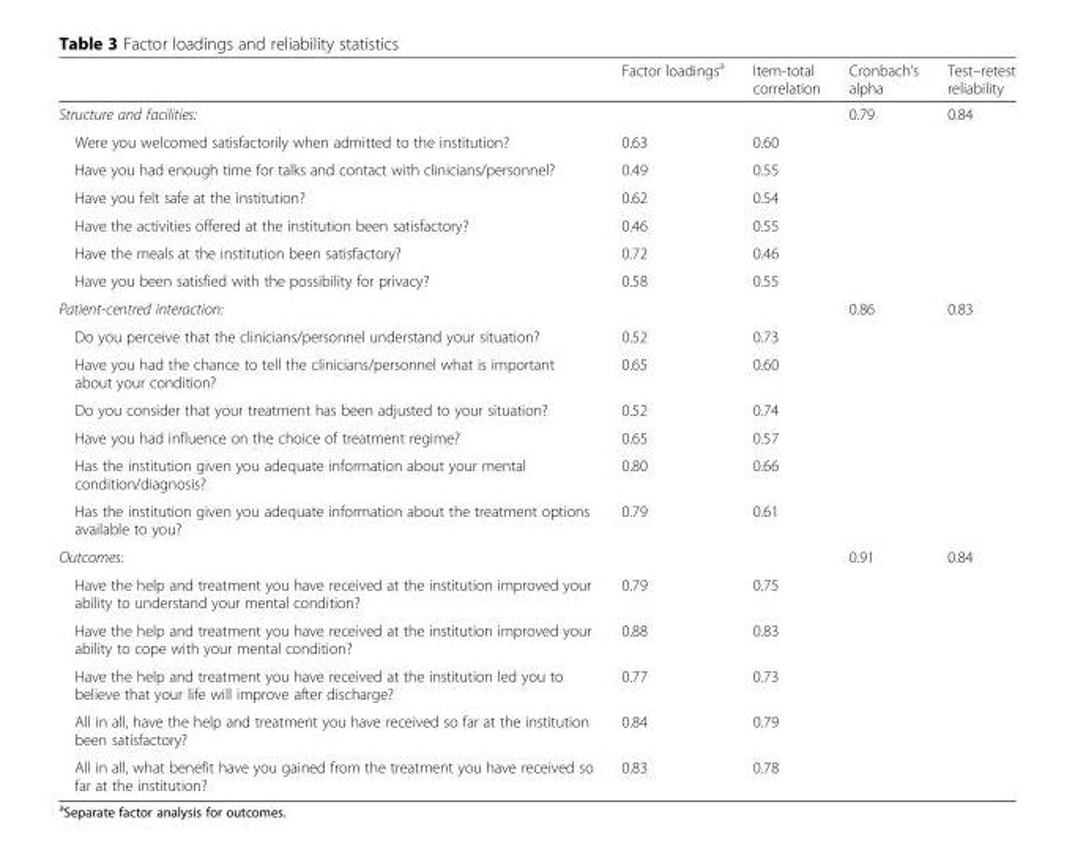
<table><thead><tr><td></td><td>Factor loadings<sup>a</sup></td><td>Item-total correlation</td><td>Cronbach’s alpha</td><td>Test–retest reliability</td></tr></thead><tbody><tr><td>Structure and facilities:</td><td></td><td></td><td>0.79</td><td>0.84</td></tr><tr><td>Were you welcomed satisfactorily when admitted to the institution?</td><td>0.63</td><td>0.60</td><td></td><td></td></tr><tr><td>Have you had enough time for talks and contact with clinicians/personnel?</td><td>0.49</td><td>0.55</td><td></td><td></td></tr><tr><td>Have you felt safe at the institution?</td><td>0.62</td><td>0.54</td><td></td><td></td></tr><tr><td>Have the activities offered at the institution been satisfactory?</td><td>0.46</td><td>0.55</td><td></td><td></td></tr><tr><td>Have the meals at the institution been satisfactory?</td><td>0.72</td><td>0.46</td><td></td><td></td></tr><tr><td>Have you been satisfied with the possibility for privacy?</td><td>0.58</td><td>0.55</td><td></td><td></td></tr><tr><td>Patient-centred interaction:</td><td></td><td></td><td>0.86</td><td>0.83</td></tr><tr><td>Do you perceive that the clinicians/personnel understand your situation?</td><td>0.52</td><td>0.73</td><td></td><td></td></tr><tr><td>Have you had the chance to tell the clinicians/personnel what is important about your condition?</td><td>0.65</td><td>0.60</td><td></td><td></td></tr><tr><td>Do you consider that your treatment has been adjusted to your situation?</td><td>0.52</td><td>0.74</td><td></td><td></td></tr><tr><td>Have you had influence on the choice of treatment regime?</td><td>0.65</td><td>0.57</td><td></td><td></td></tr><tr><td>Has the institution given you adequate information about your mental condition/diagnosis?</td><td>0.80</td><td>0.66</td><td></td><td></td></tr><tr><td>Has the institution given you adequate information about the treatment options available to you?</td><td>0.79</td><td>0.61</td><td></td><td></td></tr><tr><td>Outcomes:</td><td></td><td></td><td>0.91</td><td>0.84</td></tr><tr><td>Have the help and treatment you have received at the institution improved your ability to understand your mental condition?</td><td>0.79</td><td>0.75</td><td></td><td></td></tr><tr><td>Have the help and treatment you have received at the institution improved your ability to cope with your mental condition?</td><td>0.88</td><td>0.83</td><td></td><td></td></tr><tr><td>Have the help and treatment you have received at the institution led you to believe that your life will improve after discharge?</td><td>0.77</td><td>0.73</td><td></td><td></td></tr><tr><td>All in all, have the help and treatment you have received so far at the institution been satisfactory?</td><td>0.84</td><td>0.79</td><td></td><td></td></tr><tr><td>All in all, what benefit have you gained from the treatment you have received so far at the institution?</td><td>0.83</td><td>0.78</td><td></td><td></td></tr></tbody></table>